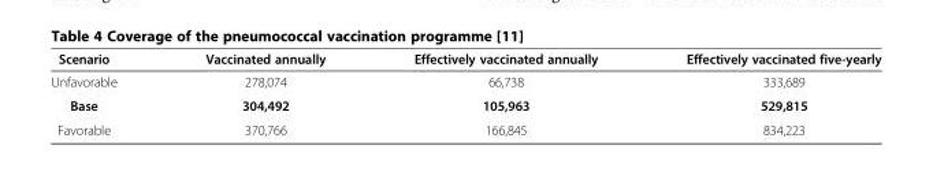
<table><thead><tr><td>Scenario</td><td>Vaccinated annually</td><td>Effectively vaccinated annually</td><td>Effectively vaccinated five-yearly</td></tr></thead><tbody><tr><td>Unfavorable</td><td>278,074</td><td>66,738</td><td>333,689</td></tr><tr><td>Base</td><td>304,492</td><td>105,963</td><td>529,815</td></tr><tr><td>Favorable</td><td>370,766</td><td>166,845</td><td>834,223</td></tr></tbody></table>